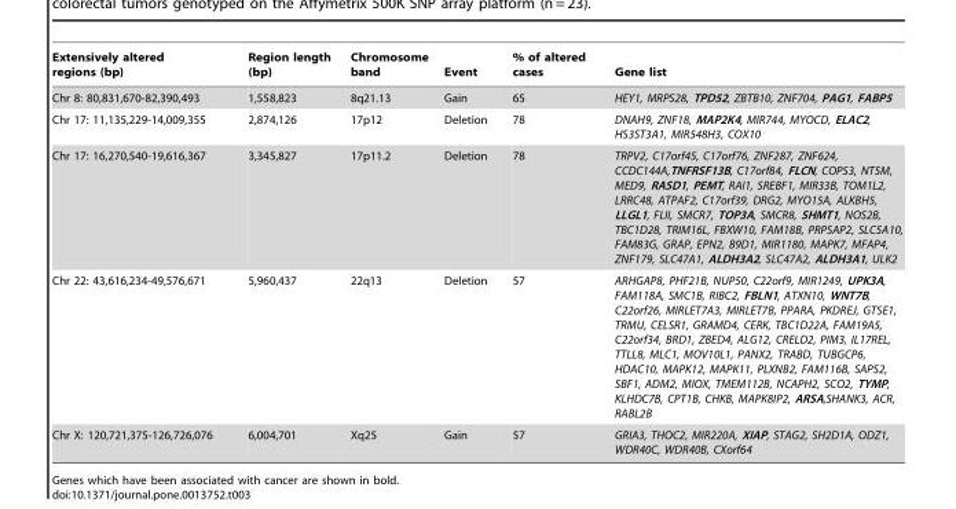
<table><thead><tr><td>Extensively altered regions (bp)</td><td>Region length (bp)</td><td>Chromosome band</td><td>Event</td><td>% of altered cases</td><td>Gene list</td></tr></thead><tbody><tr><td>Chr 8: 80,831,670-82,390,493</td><td>1,558,823</td><td>8q21.13</td><td>Gain</td><td>65</td><td>HEY1, MRPS28, TPD52, ZBTB10, ZNF704, PAG1, FABP5</td></tr><tr><td>Chr 17: 11,135,229-14,009,355</td><td>2,874,126</td><td>17p12</td><td>Deletion</td><td>78</td><td>DNAH9, ZNF18, MAP2K4, MIR744, MYOCD, ELAC2, HS3ST3A1, MIR548H3, COX10</td></tr><tr><td>Chr 17: 16,270,540-19,616,367</td><td>3,345,827</td><td>17p11.2</td><td>Deletion</td><td>78</td><td>TRPV2, C17orf45, C17orf76, ZNF287, ZNF624, CCDC144A,TNFRSF13B, C17orf84, FLCN, COPS3, NT5M, MED9, RASD1, PEMT, RAI1, SREBF1, MIR33B, TOM1L2, LRRC48, ATPAF2, C17orf39, DRG2, MYO15A, ALKBH5, LLGL1, FLII, SMCR7, TOP3A, SMCR8, SHMT1, NOS2B, TBC1D28, TRIM16L, FBXW10, FAM18B, PRPSAP2, SLC5A10, FAM83G, GRAP, EPN2, B9D1, MIR1180, MAPK7, MFAP4, ZNF179, SLC47A1, ALDH3A2, SLC47A2, ALDH3A1, ULK2</td></tr><tr><td>Chr 22: 43,616,234-49,576,671</td><td>5,960,437</td><td>22q13</td><td>Deletion</td><td>57</td><td>ARHGAP8, PHF21B, NUP50, C22orf9, MIR1249, UPK3A, FAM118A, SMC1B, RIBC2, FBLN1, ATXN10, WNT7B, C22orf26, MIRLET7A3, MIRLET7B, PPARA, PKDREJ, GTSE1, TRMU, CELSR1, GRAMD4, CERK, TBC1D22A, FAM19A5, C22orf34, BRD1, ZBED4, ALG12, CRELD2, PIM3, IL17REL, TTLL8, MLC1, MOV10L1, PANX2, TRABD, TUBGCP6, HDAC10, MAPK12, MAPK11, PLXNB2, FAM116B, SAPS2, SBF1, ADM2, MIOX, TMEM112B, NCAPH2, SCO2, TYMP, KLHDC7B, CPT1B, CHKB, MAPK8IP2, ARSA,SHANK3, ACR, RABL2B</td></tr><tr><td>Chr X: 120,721,375-126,726,076</td><td>6,004,701</td><td>Xq25</td><td>Gain</td><td>57</td><td>GRIA3, THOC2, MIR220A, XIAP, STAG2, SH2D1A, ODZ1, WDR40C, WDR40B, CXorf64</td></tr></tbody></table>